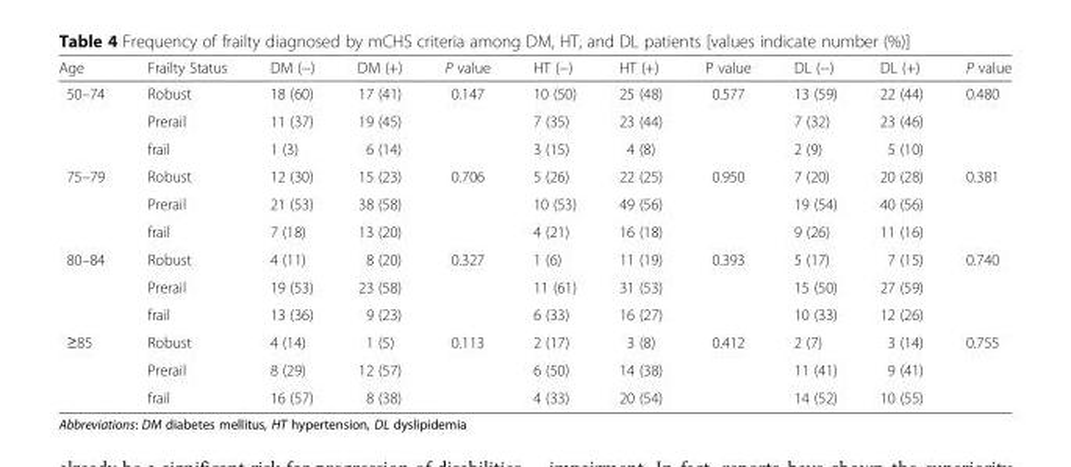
<table><thead><tr><td>Age</td><td>Frailty Status</td><td>DM (−)</td><td>DM (+)</td><td>P value</td><td>HT (−)</td><td>HT (+)</td><td>P value</td><td>DL (−)</td><td>DL (+)</td><td>P value</td></tr></thead><tbody><tr><td rowspan="3">50–74</td><td>Robust</td><td>18 (60)</td><td>17 (41)</td><td rowspan="3">0.147</td><td>10 (50)</td><td>25 (48)</td><td rowspan="3">0.577</td><td>13 (59)</td><td>22 (44)</td><td rowspan="3">0.480</td></tr><tr><td>Prerail</td><td>11 (37)</td><td>19 (45)</td><td>7 (35)</td><td>23 (44)</td><td>7 (32)</td><td>23 (46)</td></tr><tr><td>frail</td><td>1 (3)</td><td>6 (14)</td><td>3 (15)</td><td>4 (8)</td><td>2 (9)</td><td>5 (10)</td></tr><tr><td rowspan="3">75–79</td><td>Robust</td><td>12 (30)</td><td>15 (23)</td><td rowspan="3">0.706</td><td>5 (26)</td><td>22 (25)</td><td rowspan="3">0.950</td><td>7 (20)</td><td>20 (28)</td><td rowspan="3">0.381</td></tr><tr><td>Prerail</td><td>21 (53)</td><td>38 (58)</td><td>10 (53)</td><td>49 (56)</td><td>19 (54)</td><td>40 (56)</td></tr><tr><td>frail</td><td>7 (18)</td><td>13 (20)</td><td>4 (21)</td><td>16 (18)</td><td>9 (26)</td><td>11 (16)</td></tr><tr><td rowspan="3">80–84</td><td>Robust</td><td>4 (11)</td><td>8 (20)</td><td rowspan="3">0.327</td><td>1 (6)</td><td>11 (19)</td><td rowspan="3">0.393</td><td>5 (17)</td><td>7 (15)</td><td rowspan="3">0.740</td></tr><tr><td>Prerail</td><td>19 (53)</td><td>23 (58)</td><td>11 (61)</td><td>31 (53)</td><td>15 (50)</td><td>27 (59)</td></tr><tr><td>frail</td><td>13 (36)</td><td>9 (23)</td><td>6 (33)</td><td>16 (27)</td><td>10 (33)</td><td>12 (26)</td></tr><tr><td rowspan="3">≥85</td><td>Robust</td><td>4 (14)</td><td>1 (5)</td><td rowspan="3">0.113</td><td>2 (17)</td><td>3 (8)</td><td rowspan="3">0.412</td><td>2 (7)</td><td>3 (14)</td><td rowspan="3">0.755</td></tr><tr><td>Prerail</td><td>8 (29)</td><td>12 (57)</td><td>6 (50)</td><td>14 (38)</td><td>11 (41)</td><td>9 (41)</td></tr><tr><td>frail</td><td>16 (57)</td><td>8 (38)</td><td>4 (33)</td><td>20 (54)</td><td>14 (52)</td><td>10 (55)</td></tr></tbody></table>